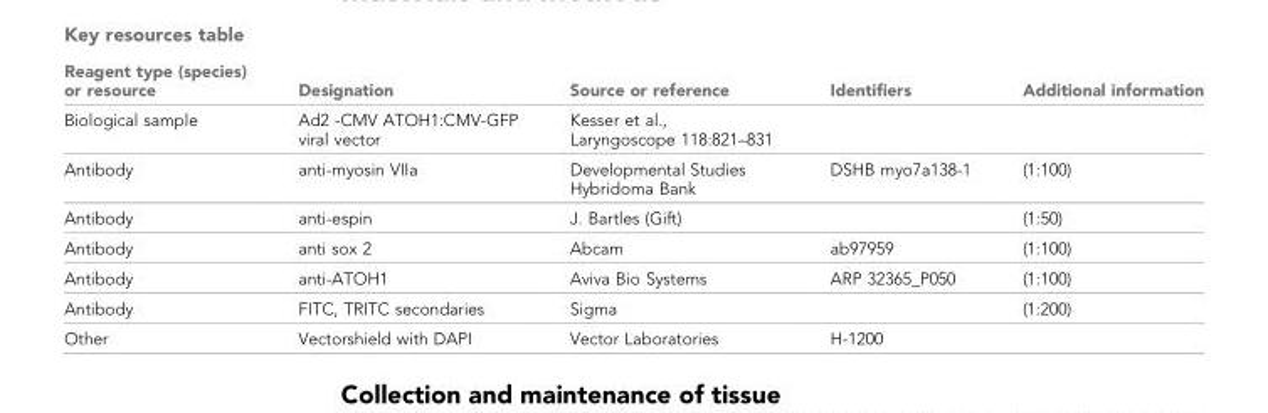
<table><thead><tr><td>Reagent type (species) or resource</td><td>Designation</td><td>Source or reference</td><td>Identifiers</td><td>Additional information</td></tr></thead><tbody><tr><td>Biological sample</td><td>Ad2 -CMV ATOH1:CMV-GFP viral vector</td><td>Kesser et al., Laryngoscope 118:821–831</td><td></td><td></td></tr><tr><td>Antibody</td><td>anti-myosin VIIa</td><td>Developmental Studies Hybridoma Bank</td><td>DSHB myo7a138-1</td><td>(1:100)</td></tr><tr><td>Antibody</td><td>anti-espin</td><td>J. Bartles (Gift)</td><td></td><td>(1:50)</td></tr><tr><td>Antibody</td><td>anti sox 2</td><td>Abcam</td><td>ab97959</td><td>(1:100)</td></tr><tr><td>Antibody</td><td>anti-ATOH1</td><td>Aviva Bio Systems</td><td>ARP 32365_P050</td><td>(1:100)</td></tr><tr><td>Antibody</td><td>FITC, TRITC secondaries</td><td>Sigma</td><td></td><td>(1:200)</td></tr><tr><td>Other</td><td>Vectorshield with DAPI</td><td>Vector Laboratories</td><td>H-1200</td><td></td></tr></tbody></table>